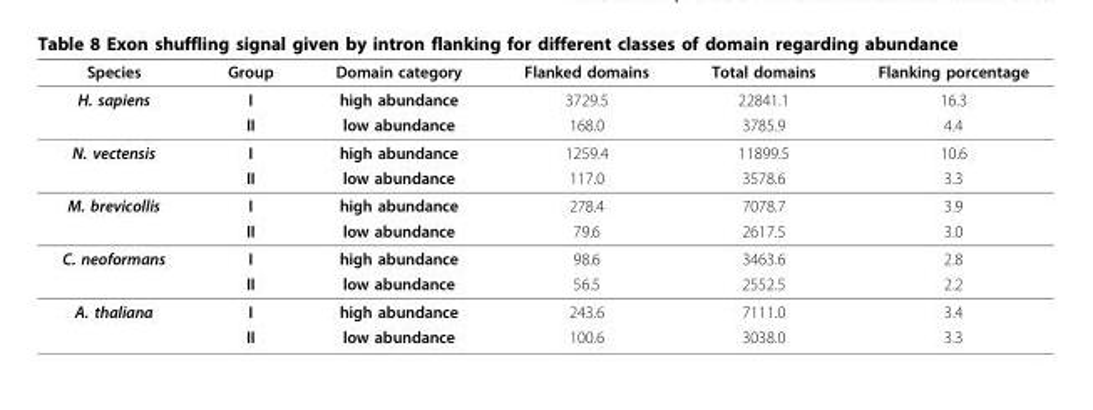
<table><thead><tr><td>Species</td><td>Group</td><td>Domain category</td><td>Flanked domains</td><td>Total domains</td><td>Flanking porcentage</td></tr></thead><tbody><tr><td rowspan="2">H. sapiens</td><td>I</td><td>high abundance</td><td>3729.5</td><td>22841.1</td><td>16.3</td></tr><tr><td>II</td><td>low abundance</td><td>168.0</td><td>3785.9</td><td>4.4</td></tr><tr><td rowspan="2">N. vectensis</td><td>I</td><td>high abundance</td><td>1259.4</td><td>11899.5</td><td>10.6</td></tr><tr><td>II</td><td>low abundance</td><td>117.0</td><td>3578.6</td><td>3.3</td></tr><tr><td rowspan="2">M. brevicollis</td><td>I</td><td>high abundance</td><td>278.4</td><td>7078.7</td><td>3.9</td></tr><tr><td>II</td><td>low abundance</td><td>79.6</td><td>2617.5</td><td>3.0</td></tr><tr><td rowspan="2">C. neoformans</td><td>I</td><td>high abundance</td><td>98.6</td><td>3463.6</td><td>2.8</td></tr><tr><td>II</td><td>low abundance</td><td>56.5</td><td>2552.5</td><td>2.2</td></tr><tr><td rowspan="2">A. thaliana</td><td>I</td><td>high abundance</td><td>243.6</td><td>7111.0</td><td>3.4</td></tr><tr><td>II</td><td>low abundance</td><td>100.6</td><td>3038.0</td><td>3.3</td></tr></tbody></table>